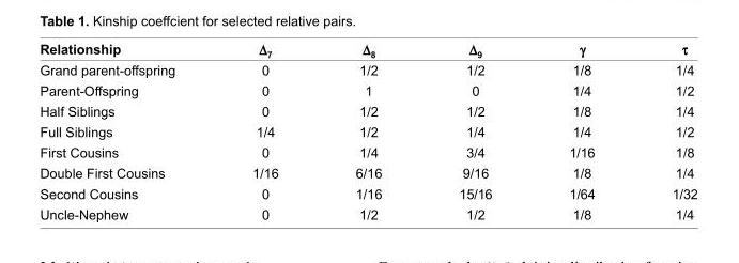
<table><thead><tr><td>Relationship</td><td>Δ<sub>7</sub></td><td>Δ<sub>8</sub></td><td>Δ<sub>9</sub></td><td>γ</td><td>τ</td></tr></thead><tbody><tr><td>Grand parent-offspring</td><td>0</td><td>1/2</td><td>1/2</td><td>1/8</td><td>1/4</td></tr><tr><td>Parent-Offspring</td><td>0</td><td>1</td><td>0</td><td>1/4</td><td>1/2</td></tr><tr><td>Half Siblings</td><td>0</td><td>1/2</td><td>1/2</td><td>1/8</td><td>1/4</td></tr><tr><td>Full Siblings</td><td>1/4</td><td>1/2</td><td>1/4</td><td>1/4</td><td>1/2</td></tr><tr><td>First Cousins</td><td>0</td><td>1/4</td><td>3/4</td><td>1/16</td><td>1/8</td></tr><tr><td>Double First Cousins</td><td>1/16</td><td>6/16</td><td>9/16</td><td>1/8</td><td>1/4</td></tr><tr><td>Second Cousins</td><td>0</td><td>1/16</td><td>15/16</td><td>1/64</td><td>1/32</td></tr><tr><td>Uncle-Nephew</td><td>0</td><td>1/2</td><td>1/2</td><td>1/8</td><td>1/4</td></tr></tbody></table>